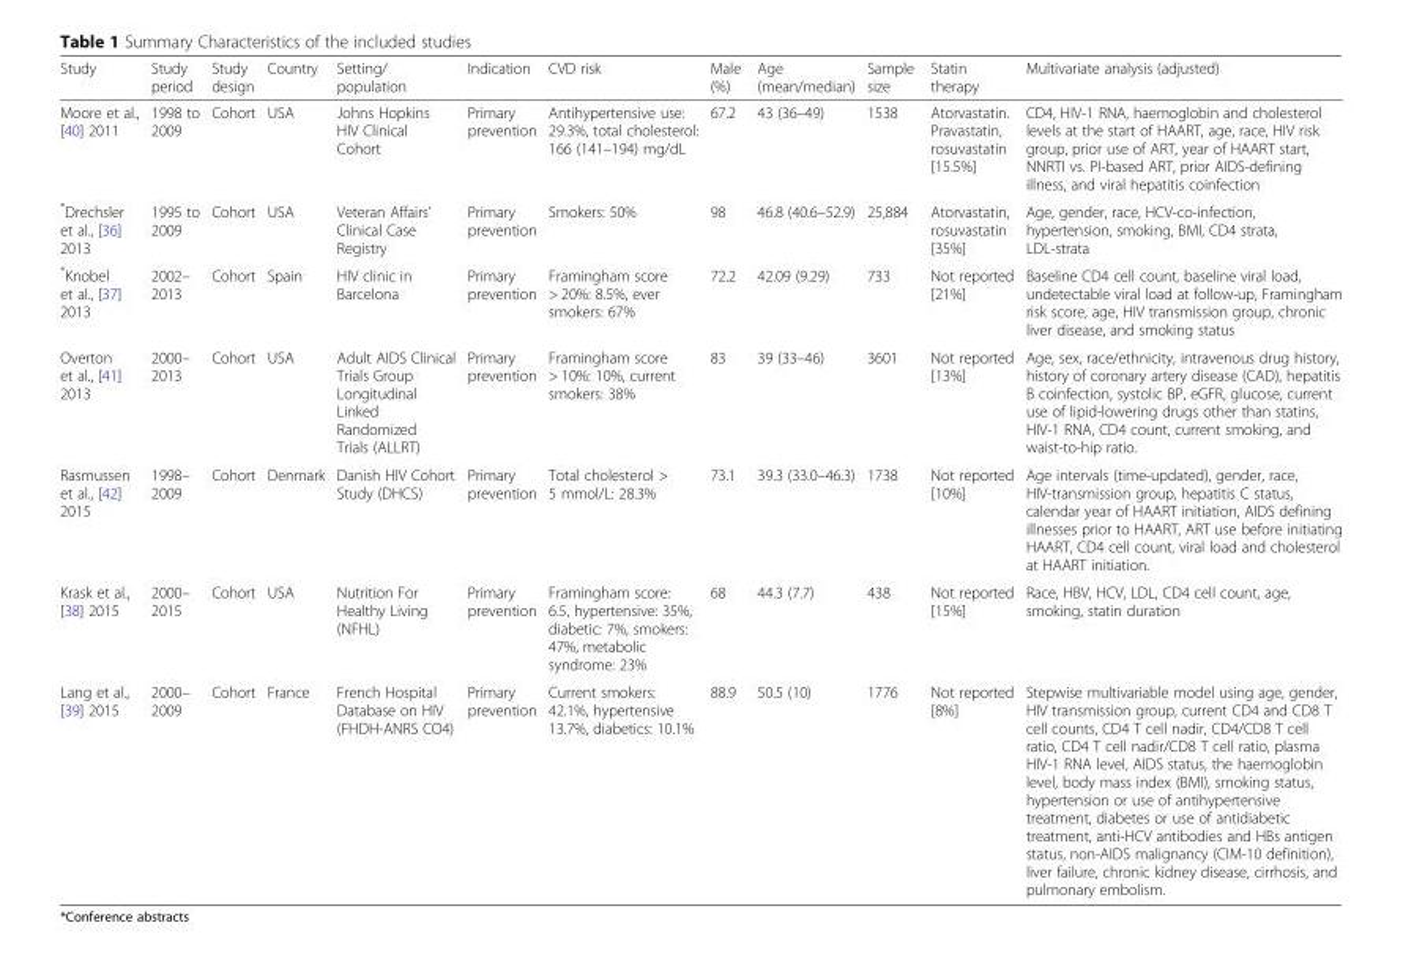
<table><thead><tr><td>Study</td><td>Study period</td><td>Study design</td><td>Country</td><td>Setting/ population</td><td>Indication</td><td>CVD risk</td><td>Male (%)</td><td>Age (mean/median)</td><td>Sample size</td><td>Statin therapy</td><td>Multivariate analysis (adjusted)</td></tr></thead><tbody><tr><td>Moore et al., [40] 2011</td><td>1998 to 2009</td><td>Cohort</td><td>USA</td><td>Johns Hopkins HIV Clinical Cohort</td><td>Primary prevention</td><td>Antihypertensive use: 29.3%, total cholesterol: 166 (141–194) mg/dL</td><td>67.2</td><td>43 (36–49)</td><td>1538</td><td>Atorvastatin. Pravastatin, rosuvastatin [15.5%]</td><td>CD4, HIV-1 RNA, haemoglobin and cholesterol levels at the start of HAART, age, race, HIV risk group, prior use of ART, year of HAART start, NNRTI vs. PI-based ART, prior AIDS-defining illness, and viral hepatitis coinfection</td></tr><tr><td>*Drechsler et al., [36] 2013</td><td>1995 to 2009</td><td>Cohort</td><td>USA</td><td>Veteran Affairs’ Clinical Case Registry</td><td>Primary prevention</td><td>Smokers: 50%</td><td>98</td><td>46.8 (40.6–52.9)</td><td>25,884</td><td>Atorvastatin, rosuvastatin [35%]</td><td>Age, gender, race, HCV-co-infection, hypertension, smoking, BMI, CD4 strata, LDL-strata</td></tr><tr><td>*Knobel et al., [37] 2013</td><td>2002– 2013</td><td>Cohort</td><td>Spain</td><td>HIV clinic in Barcelona</td><td>Primary prevention</td><td>Framingham score &gt; 20%: 8.5%, ever smokers: 67%</td><td>72.2</td><td>42.09 (9.29)</td><td>733</td><td>Not reported [21%]</td><td>Baseline CD4 cell count, baseline viral load, undetectable viral load at follow-up, Framingham risk score, age, HIV transmission group, chronic liver disease, and smoking status</td></tr><tr><td>Overton et al., [41] 2013</td><td>2000– 2013</td><td>Cohort</td><td>USA</td><td>Adult AIDS Clinical Trials Group Longitudinal Linked Randomized Trials (ALLRT)</td><td>Primary prevention</td><td>Framingham score &gt; 10%: 10%, current smokers: 38%</td><td>83</td><td>39 (33–46)</td><td>3601</td><td>Not reported [13%]</td><td>Age, sex, race/ethnicity, intravenous drug history, history of coronary artery disease (CAD), hepatitis B coinfection, systolic BP, eGFR, glucose, current use of lipid-lowering drugs other than statins, HIV-1 RNA, CD4 count, current smoking, and waist-to-hip ratio.</td></tr><tr><td>Rasmussen et al., [42] 2015</td><td>1998– 2009</td><td>Cohort</td><td>Denmark</td><td>Danish HIV Cohort Study (DHCS)</td><td>Primary prevention</td><td>Total cholesterol &gt; 5 mmol/L: 28.3%</td><td>73.1</td><td>39.3 (33.0–46.3)</td><td>1738</td><td>Not reported [10%]</td><td>Age intervals (time-updated), gender, race, HIV-transmission group, hepatitis C status, calendar year of HAART initiation, AIDS defining illnesses prior to HAART, ART use before initiating HAART, CD4 cell count, viral load and cholesterol at HAART initiation.</td></tr><tr><td>Krask et al., [38] 2015</td><td>2000– 2015</td><td>Cohort</td><td>USA</td><td>Nutrition For Healthy Living (NFHL)</td><td>Primary prevention</td><td>Framingham score: 6.5, hypertensive: 35%, diabetic: 7%, smokers: 47%, metabolic syndrome: 23%</td><td>68</td><td>44.3 (7.7)</td><td>438</td><td>Not reported [15%]</td><td>Race, HBV, HCV, LDL, CD4 cell count, age, smoking, statin duration</td></tr><tr><td>Lang et al., [39] 2015</td><td>2000– 2009</td><td>Cohort</td><td>France</td><td>French Hospital Database on HIV (FHDH-ANRS CO4)</td><td>Primary prevention</td><td>Current smokers: 42.1%, hypertensive 13.7%, diabetics: 10.1%</td><td>88.9</td><td>50.5 (10)</td><td>1776</td><td>Not reported [8%]</td><td>Stepwise multivariable model using age, gender, HIV transmission group, current CD4 and CD8 T cell counts, CD4 T cell nadir, CD4/CD8 T cell ratio, CD4 T cell nadir/CD8 T cell ratio, plasma HIV-1 RNA level, AIDS status, the haemoglobin level, body mass index (BMI), smoking status, hypertension or use of antihypertensive treatment, diabetes or use of antidiabetic treatment, anti-HCV antibodies and HBs antigen status, non-AIDS malignancy (CIM-10 definition), liver failure, chronic kidney disease, cirrhosis, and pulmonary embolism.</td></tr></tbody></table>